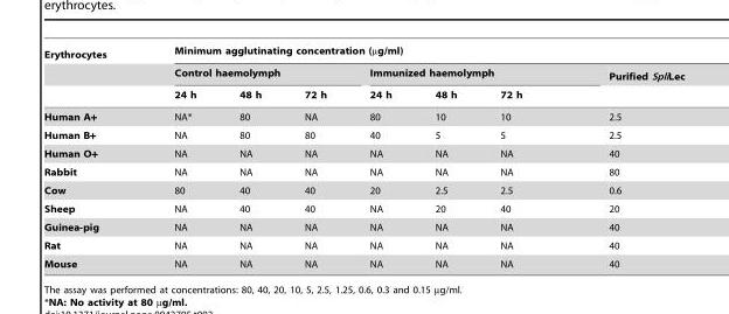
<table><thead><tr><td rowspan="3">Erythrocytes</td><td colspan="7">Minimum agglutinating concentration (µg/ml)</td></tr><tr><td colspan="3">Control haemolymph</td><td colspan="3">Immunized haemolymph</td><td rowspan="2">Purified SpliLec</td></tr><tr><td>24 h</td><td>48 h</td><td>72 h</td><td>24 h</td><td>48 h</td><td>72 h</td></tr></thead><tbody><tr><td>Human A+</td><td>NA*</td><td>80</td><td>NA</td><td>80</td><td>10</td><td>10</td><td>2.5</td></tr><tr><td>Human B+</td><td>NA</td><td>80</td><td>80</td><td>40</td><td>5</td><td>5</td><td>2.5</td></tr><tr><td>Human O+</td><td>NA</td><td>NA</td><td>NA</td><td>NA</td><td>NA</td><td>NA</td><td>40</td></tr><tr><td>Rabbit</td><td>NA</td><td>NA</td><td>NA</td><td>NA</td><td>NA</td><td>NA</td><td>80</td></tr><tr><td>Cow</td><td>80</td><td>40</td><td>40</td><td>20</td><td>2.5</td><td>2.5</td><td>0.6</td></tr><tr><td>Sheep</td><td>NA</td><td>40</td><td>40</td><td>NA</td><td>20</td><td>40</td><td>20</td></tr><tr><td>Guinea-pig</td><td>NA</td><td>NA</td><td>NA</td><td>NA</td><td>NA</td><td>NA</td><td>40</td></tr><tr><td>Rat</td><td>NA</td><td>NA</td><td>NA</td><td>NA</td><td>NA</td><td>NA</td><td>40</td></tr><tr><td>Mouse</td><td>NA</td><td>NA</td><td>NA</td><td>NA</td><td>NA</td><td>NA</td><td>40</td></tr></tbody></table>